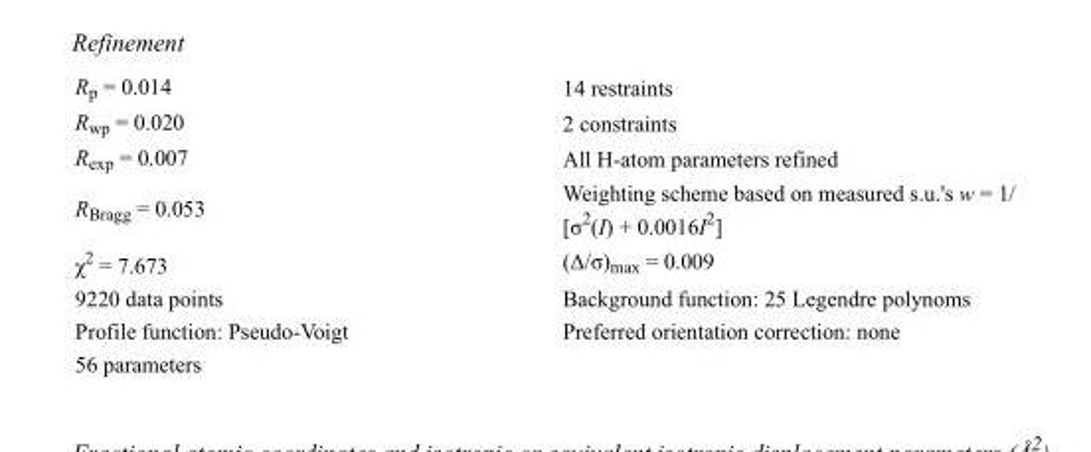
<table><tbody><tr><td>R<sub>p</sub> = 0.014</td><td>14 restraints</td></tr><tr><td>R<sub>wp</sub> = 0.020</td><td>2 constraints</td></tr><tr><td>R<sub>exp</sub> = 0.007</td><td>All H-atom parameters refined</td></tr><tr><td>R<sub>Bragg</sub> = 0.053</td><td>Weighting scheme based on measured s.u.&#x27;s w = 1/ [σ<sup>2</sup>(I) + 0.0016I<sup>2</sup>]</td></tr><tr><td>χ<sup>2</sup> = 7.673</td><td>(Δ/σ)<sub>max</sub> = 0.009</td></tr><tr><td>9220 data points</td><td>Background function: 25 Legendre polynoms</td></tr><tr><td>Profile function: Pseudo-Voigt</td><td>Preferred orientation correction: none</td></tr><tr><td>56 parameters</td><td></td></tr></tbody></table>